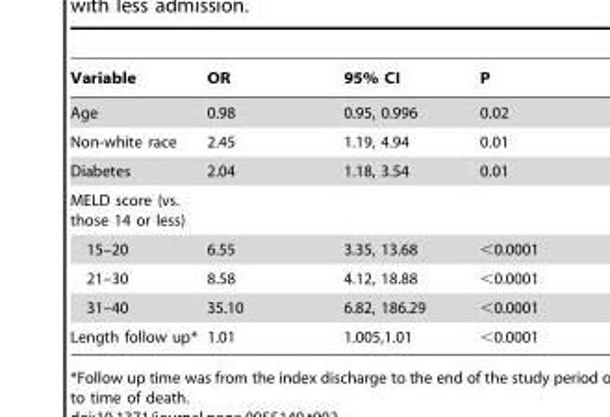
<table><thead><tr><td>Variable</td><td>OR</td><td>95% CI</td><td>P</td></tr></thead><tbody><tr><td>Age</td><td>0.98</td><td>0.95, 0.996</td><td>0.02</td></tr><tr><td>Non-white race</td><td>2.45</td><td>1.19, 4.94</td><td>0.01</td></tr><tr><td>Diabetes</td><td>2.04</td><td>1.18, 3.54</td><td>0.01</td></tr><tr><td colspan="4">MELD score (vs. those 14 or less)</td></tr><tr><td>15–20</td><td>6.55</td><td>3.35, 13.68</td><td>&lt;0.0001</td></tr><tr><td>21–30</td><td>8.58</td><td>4.12, 18.88</td><td>&lt;0.0001</td></tr><tr><td>31–40</td><td>35.10</td><td>6.82, 186.29</td><td>&lt;0.0001</td></tr><tr><td>Length follow up*</td><td>1.01</td><td>1.005,1.01</td><td>&lt;0.0001</td></tr></tbody></table>